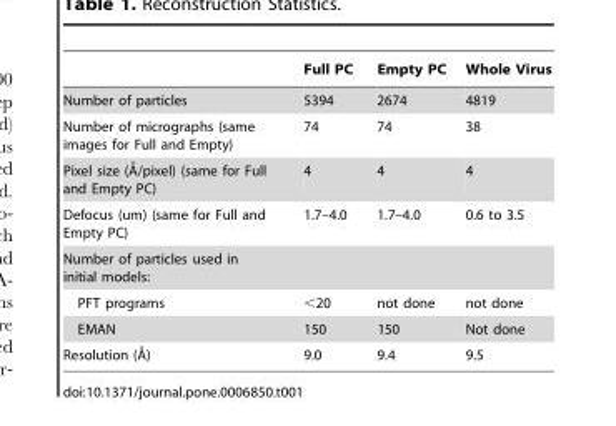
<table><thead><tr><td></td><td>Full PC</td><td>Empty PC</td><td>Whole Virus</td></tr></thead><tbody><tr><td>Number of particles</td><td>5394</td><td>2674</td><td>4819</td></tr><tr><td>Number of micrographs (same images for Full and Empty)</td><td>74</td><td>74</td><td>38</td></tr><tr><td>Pixel size (A˚/pixel) (same for Full and Empty PC)</td><td>4</td><td>4</td><td>4</td></tr><tr><td>Defocus (um) (same for Full and Empty PC)</td><td>1.7–4.0</td><td>1.7–4.0</td><td>0.6 to 3.5</td></tr><tr><td colspan="4">Number of particles used in initial models:</td></tr><tr><td>PFT programs</td><td>&lt;20</td><td>not done</td><td>not done</td></tr><tr><td>EMAN</td><td>150</td><td>150</td><td>Not done</td></tr><tr><td>Resolution (A˚)</td><td>9.0</td><td>9.4</td><td>9.5</td></tr></tbody></table>